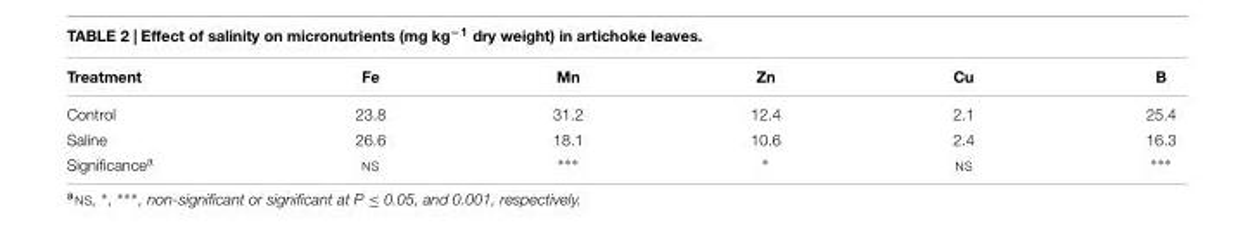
<table><thead><tr><td>Treatment</td><td>Fe</td><td>Mn</td><td>Zn</td><td>Cu</td><td>B</td></tr></thead><tbody><tr><td>Control</td><td>23.8</td><td>31.2</td><td>12.4</td><td>2.1</td><td>25.4</td></tr><tr><td>Saline</td><td>26.6</td><td>18.1</td><td>10.6</td><td>2.4</td><td>16.3</td></tr><tr><td>Significance<sup>a</sup></td><td>NS</td><td>∗∗∗</td><td>∗</td><td>NS</td><td>∗∗∗</td></tr></tbody></table>